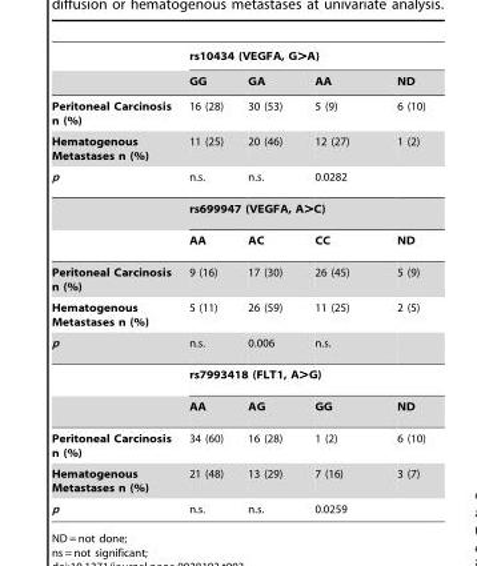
<table><thead><tr><td rowspan="2"></td><td colspan="4">rs10434 (VEGFA, G&gt;A)</td></tr><tr><td>GG</td><td>GA</td><td>AA</td><td>ND</td></tr></thead><tbody><tr><td>Peritoneal Carcinosis n (%)</td><td>16 (28)</td><td>30 (53)</td><td>5 (9)</td><td>6 (10)</td></tr><tr><td>Hematogenous Metastases n (%)</td><td>11 (25)</td><td>20 (46)</td><td>12 (27)</td><td>1 (2)</td></tr><tr><td rowspan="3">p</td><td>n.s.</td><td>n.s.</td><td>0.0282</td><td></td></tr><tr><td colspan="4">rs699947 (VEGFA, A&gt;C)</td></tr><tr><td>AA</td><td>AC</td><td>CC</td><td>ND</td></tr><tr><td>Peritoneal Carcinosis n (%)</td><td>9 (16)</td><td>17 (30)</td><td>26 (45)</td><td>5 (9)</td></tr><tr><td>Hematogenous Metastases n (%)</td><td>5 (11)</td><td>26 (59)</td><td>11 (25)</td><td>2 (5)</td></tr><tr><td rowspan="3">p</td><td>n.s.</td><td>0.006</td><td>n.s.</td><td></td></tr><tr><td colspan="4">rs7993418 (FLT1, A&gt;G)</td></tr><tr><td>AA</td><td>AG</td><td>GG</td><td>ND</td></tr><tr><td>Peritoneal Carcinosis n (%)</td><td>34 (60)</td><td>16 (28)</td><td>1 (2)</td><td>6 (10)</td></tr><tr><td>Hematogenous Metastases n (%)</td><td>21 (48)</td><td>13 (29)</td><td>7 (16)</td><td>3 (7)</td></tr><tr><td>p</td><td>n.s.</td><td>n.s.</td><td>0.0259</td><td></td></tr></tbody></table>